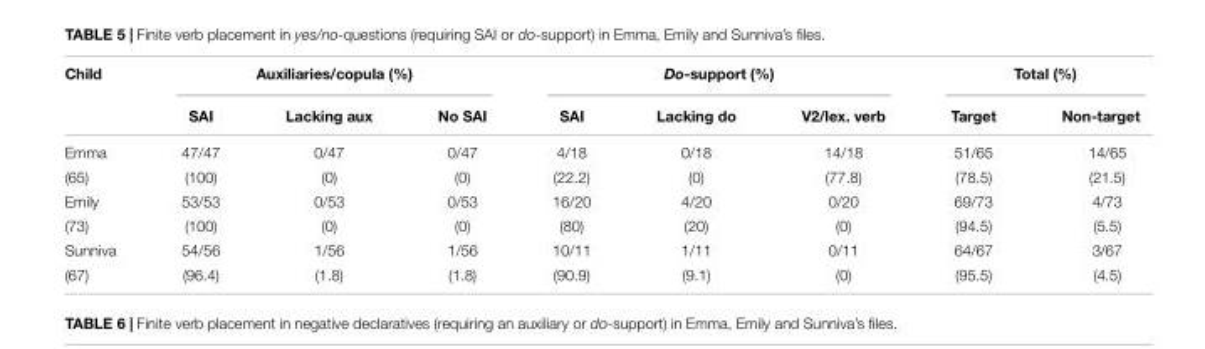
<table><thead><tr><td rowspan="2">Child</td><td colspan="3">Auxiliaries/copula (%)</td><td colspan="3">Do-support (%)</td><td colspan="2">Total (%)</td></tr><tr><td>SAI</td><td>Lacking aux</td><td>No SAI</td><td>SAI</td><td>Lacking do</td><td>V2/lex. verb</td><td>Target</td><td>Non-target</td></tr></thead><tbody><tr><td>Emma</td><td>47/47</td><td>0/47</td><td>0/47</td><td>4/18</td><td>0/18</td><td>14/18</td><td>51/65</td><td>14/65</td></tr><tr><td>(65)</td><td>(100)</td><td>(0)</td><td>(0)</td><td>(22.2)</td><td>(0)</td><td>(77.8)</td><td>(78.5)</td><td>(21.5)</td></tr><tr><td>Emily</td><td>53/53</td><td>0/53</td><td>0/53</td><td>16/20</td><td>4/20</td><td>0/20</td><td>69/73</td><td>4/73</td></tr><tr><td>(73)</td><td>(100)</td><td>(0)</td><td>(0)</td><td>(80)</td><td>(20)</td><td>(0)</td><td>(94.5)</td><td>(5.5)</td></tr><tr><td>Sunniva</td><td>54/56</td><td>1/56</td><td>1/56</td><td>10/11</td><td>1/11</td><td>0/11</td><td>64/67</td><td>3/67</td></tr><tr><td>(67)</td><td>(96.4)</td><td>(1.8)</td><td>(1.8)</td><td>(90.9)</td><td>(9.1)</td><td>(0)</td><td>(95.5)</td><td>(4.5)</td></tr></tbody></table>